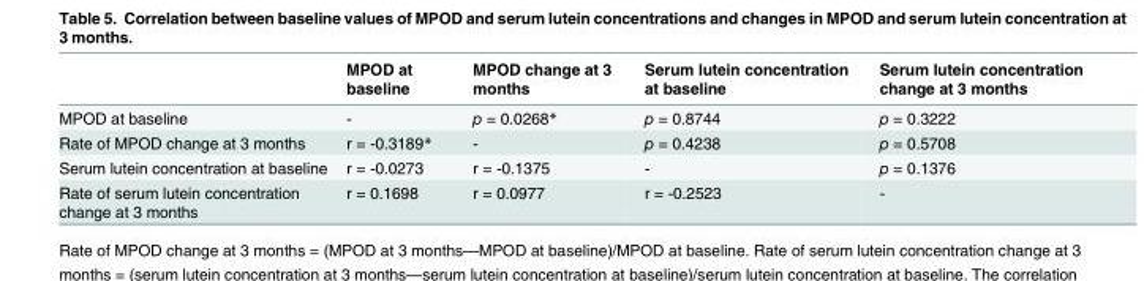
<table><thead><tr><td></td><td>MPOD at baseline</td><td>MPOD change at 3 months</td><td>Serum lutein concentration at baseline</td><td>Serum lutein concentration change at 3 months</td></tr></thead><tbody><tr><td>MPOD at baseline</td><td>-</td><td>p = 0.0268*</td><td>p = 0.8744</td><td>p = 0.3222</td></tr><tr><td>Rate of MPOD change at 3 months</td><td>r = -0.3189*</td><td>-</td><td>p = 0.4238</td><td>p = 0.5708</td></tr><tr><td>Serum lutein concentration at baseline</td><td>r = -0.0273</td><td>r = -0.1375</td><td>-</td><td>p = 0.1376</td></tr><tr><td>Rate of serum lutein concentration change at 3 months</td><td>r = 0.1698</td><td>r = 0.0977</td><td>r = -0.2523</td><td>-</td></tr></tbody></table>